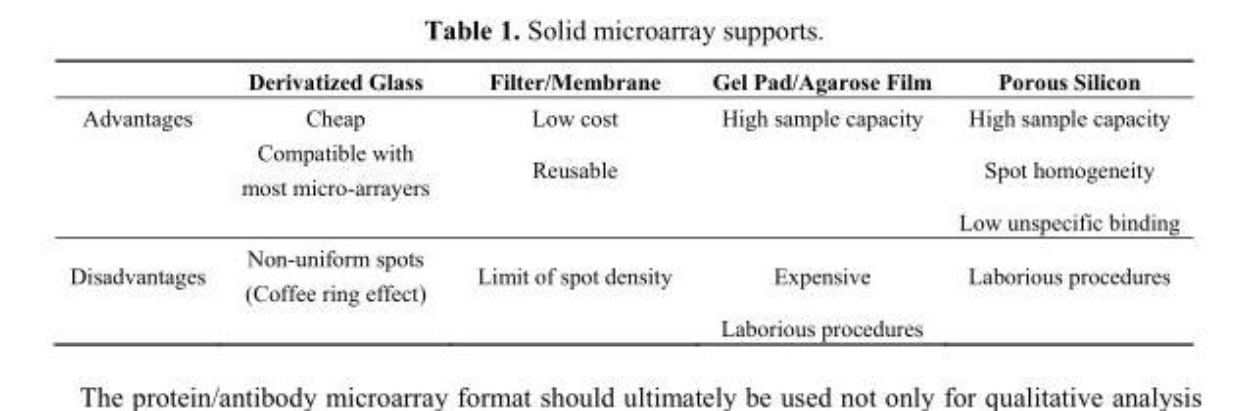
<table><thead><tr><td></td><td>Derivatized Glass</td><td>Filter/Membrane</td><td>Gel Pad/Agarose Film</td><td>Porous Silicon</td></tr></thead><tbody><tr><td rowspan="3">Advantages</td><td>Cheap</td><td>Low cost</td><td>High sample capacity</td><td>High sample capacity</td></tr><tr><td>Compatible with most micro-arrayers</td><td>Reusable</td><td></td><td>Spot homogeneity</td></tr><tr><td></td><td></td><td></td><td>Low unspecific binding</td></tr><tr><td rowspan="2">Disadvantages</td><td>Non-uniform spots (Coffee ring effect)</td><td>Limit of spot density</td><td>Expensive</td><td>Laborious procedures</td></tr><tr><td></td><td></td><td>Laborious procedures</td><td></td></tr></tbody></table>